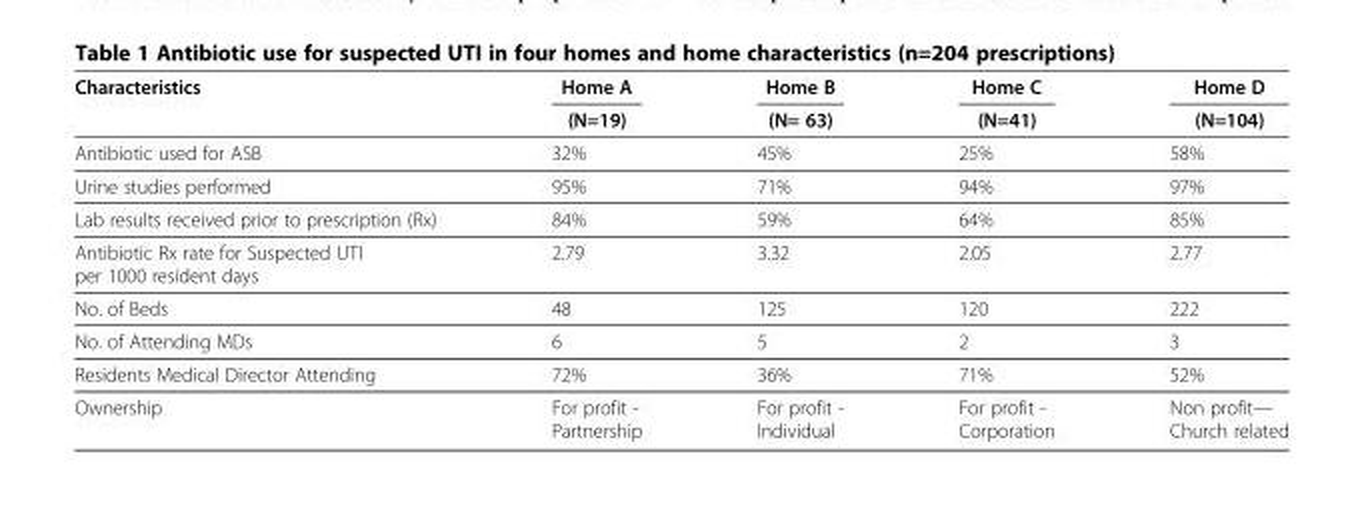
<table><thead><tr><td rowspan="2">Characteristics</td><td rowspan="2">Home A (N=19)</td><td rowspan="2">Home B (N= 63)</td><td rowspan="2">Home C (N=41)</td><td rowspan="2">Home D (N=104)</td></tr><tr></tr></thead><tbody><tr><td>Antibiotic used for ASB</td><td>32%</td><td>45%</td><td>25%</td><td>58%</td></tr><tr><td>Urine studies performed</td><td>95%</td><td>71%</td><td>94%</td><td>97%</td></tr><tr><td>Lab results received prior to prescription (Rx)</td><td>84%</td><td>59%</td><td>64%</td><td>85%</td></tr><tr><td>Antibiotic Rx rate for Suspected UTI per 1000 resident days</td><td>2.79</td><td>3.32</td><td>2.05</td><td>2.77</td></tr><tr><td>No. of Beds</td><td>48</td><td>125</td><td>120</td><td>222</td></tr><tr><td>No. of Attending MDs</td><td>6</td><td>5</td><td>2</td><td>3</td></tr><tr><td>Residents Medical Director Attending</td><td>72%</td><td>36%</td><td>71%</td><td>52%</td></tr><tr><td>Ownership</td><td>For profit - Partnership</td><td>For profit - Individual</td><td>For profit - Corporation</td><td>Non profit— Church related</td></tr></tbody></table>